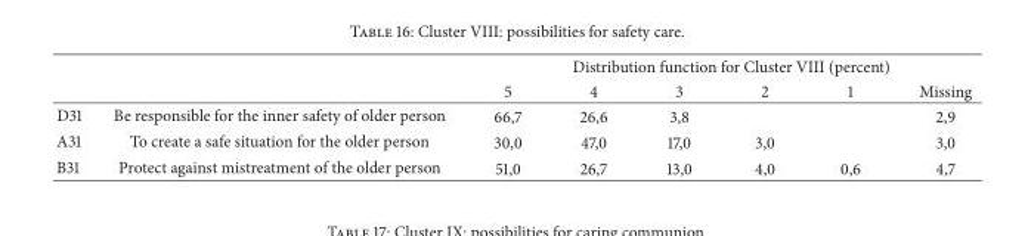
<table><thead><tr><td rowspan="2"></td><td rowspan="2"></td><td colspan="6">Distribution function for Cluster VIII (percent)</td></tr><tr><td>5</td><td>4</td><td>3</td><td>2</td><td>1</td><td>Missing</td></tr></thead><tbody><tr><td>D31</td><td>Be responsible for the inner safety of older person</td><td>66,7</td><td>26,6</td><td>3,8</td><td></td><td></td><td>2,9</td></tr><tr><td>A31</td><td>To create a safe situation for the older person</td><td>30,0</td><td>47,0</td><td>17,0</td><td>3,0</td><td></td><td>3,0</td></tr><tr><td>B31</td><td>Protect against mistreatment of the older person</td><td>51,0</td><td>26,7</td><td>13,0</td><td>4,0</td><td>0,6</td><td>4,7</td></tr></tbody></table>